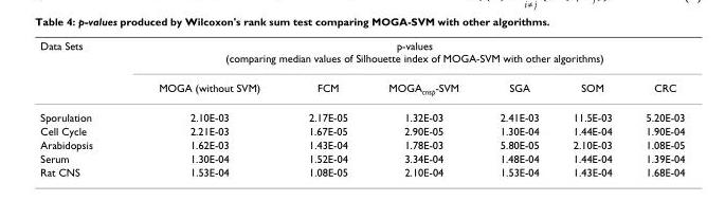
<table><thead><tr><td rowspan="2">Data Sets</td><td colspan="6">p-values (comparing median values of Silhouette index of MOGA-SVM with other algorithms)</td></tr><tr><td>MOGA (without SVM)</td><td>FCM</td><td>MOGA<sub>crisp</sub>-SVM</td><td>SGA</td><td>SOM</td><td>CRC</td></tr></thead><tbody><tr><td>Sporulation</td><td>2.10E-03</td><td>2.17E-05</td><td>1.32E-03</td><td>2.41E-03</td><td>11.5E-03</td><td>5.20E-03</td></tr><tr><td>Cell Cycle</td><td>2.21E-03</td><td>1.67E-05</td><td>2.90E-05</td><td>1.30E-04</td><td>1.44E-04</td><td>1.90E-04</td></tr><tr><td>Arabidopsis</td><td>1.62E-03</td><td>1.43E-04</td><td>1.78E-03</td><td>5.80E-05</td><td>2.10E-03</td><td>1.08E-05</td></tr><tr><td>Serum</td><td>1.30E-04</td><td>1.52E-04</td><td>3.34E-04</td><td>1.48E-04</td><td>1.44E-04</td><td>1.39E-04</td></tr><tr><td>Rat CNS</td><td>1.53E-04</td><td>1.08E-05</td><td>2.10E-04</td><td>1.53E-04</td><td>1.43E-04</td><td>1.68E-04</td></tr></tbody></table>